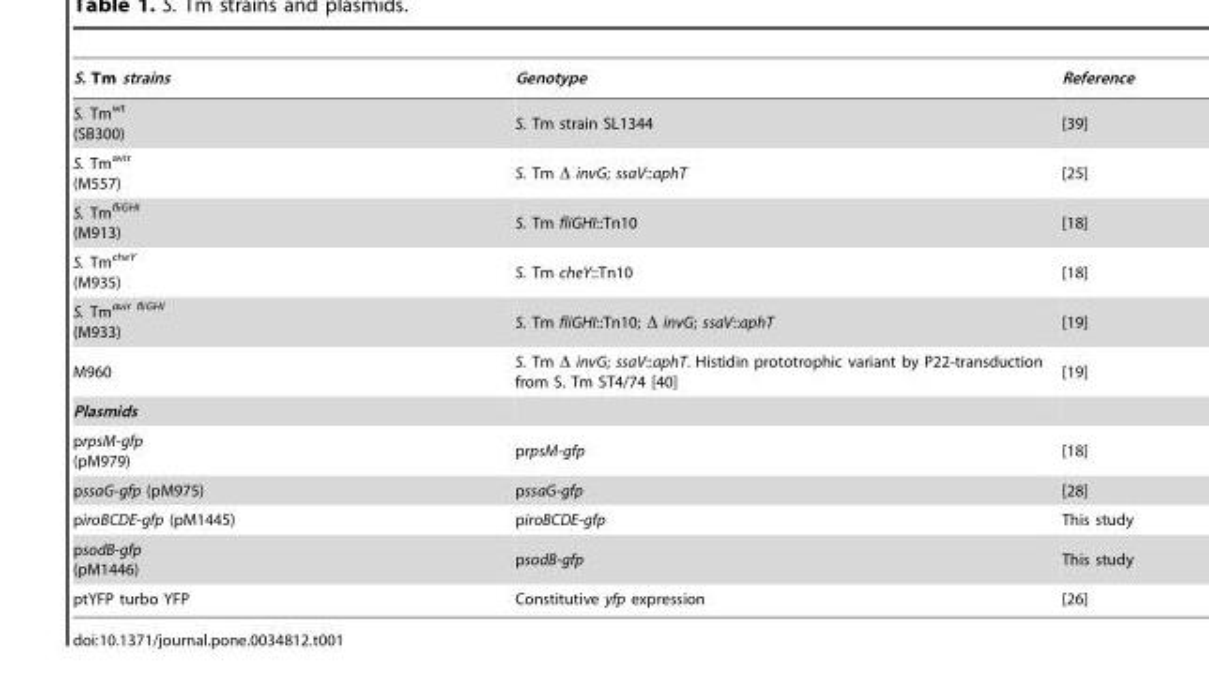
<table><thead><tr><td>S. Tm strains</td><td>Genotype</td><td>Reference</td></tr></thead><tbody><tr><td>S. Tm<sup>wt</sup> (SB300)</td><td>S. Tm strain SL1344</td><td>[39]</td></tr><tr><td>S. Tm<sup>avir</sup> (M557)</td><td>S. Tm Δ invG; ssaV::aphT</td><td>[25]</td></tr><tr><td>S. Tm<sup>fliGHI</sup> (M913)</td><td>S. Tm fliGHI::Tn10</td><td>[18]</td></tr><tr><td>S. Tm<sup>cheY</sup> (M935)</td><td>S. Tm cheY::Tn10</td><td>[18]</td></tr><tr><td>S. Tm<sup>avir fliGHI</sup> (M933)</td><td>S. Tm fliGHI::Tn10; Δ invG; ssaV::aphT</td><td>[19]</td></tr><tr><td>M960</td><td>S. Tm Δ invG; ssaV::aphT. Histidin prototrophic variant by P22-transduction from S. Tm ST4/74 [40]</td><td>[19]</td></tr><tr><td colspan="3">Plasmids</td></tr><tr><td>prpsM-gfp (pM979)</td><td>prpsM-gfp</td><td>[18]</td></tr><tr><td>pssaG-gfp (pM975)</td><td>pssaG-gfp</td><td>[28]</td></tr><tr><td>piroBCDE-gfp (pM1445)</td><td>piroBCDE-gfp</td><td>This study</td></tr><tr><td>psodB-gfp (pM1446)</td><td>psodB-gfp</td><td>This study</td></tr><tr><td>ptYFP turbo YFP</td><td>Constitutive yfp expression</td><td>[26]</td></tr></tbody></table>